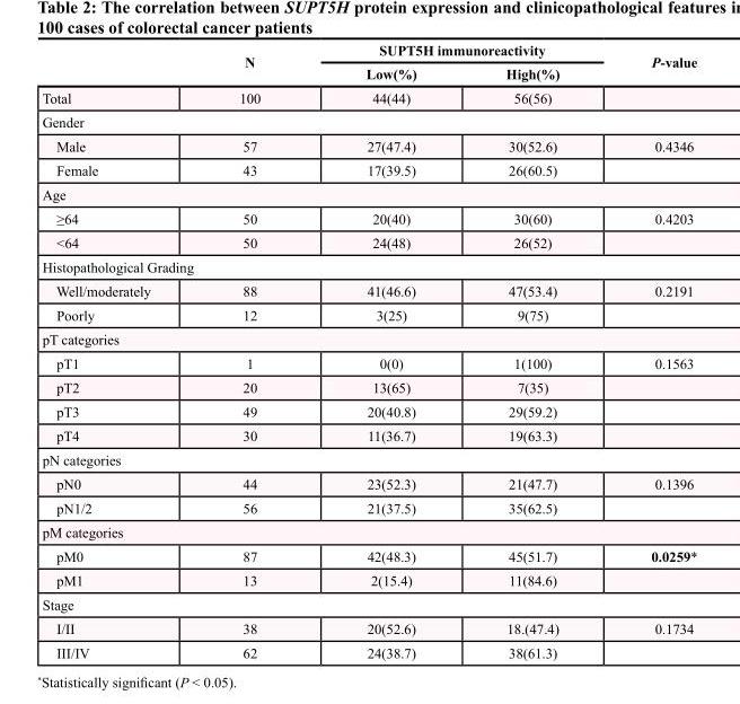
<table><thead><tr><td rowspan="2"></td><td rowspan="2">N</td><td colspan="2">SUPT5H immunoreactivity</td><td rowspan="2">P-value</td></tr><tr><td>Low(%)</td><td>High(%)</td></tr></thead><tbody><tr><td>Total</td><td>100</td><td>44(44)</td><td>56(56)</td><td></td></tr><tr><td colspan="5">Gender</td></tr><tr><td>Male</td><td>57</td><td>27(47.4)</td><td>30(52.6)</td><td>0.4346</td></tr><tr><td>Female</td><td>43</td><td>17(39.5)</td><td>26(60.5)</td><td></td></tr><tr><td colspan="5">Age</td></tr><tr><td>≥64</td><td>50</td><td>20(40)</td><td>30(60)</td><td>0.4203</td></tr><tr><td>&lt;64</td><td>50</td><td>24(48)</td><td>26(52)</td><td></td></tr><tr><td colspan="5">Histopathological Grading</td></tr><tr><td>Well/moderately</td><td>88</td><td>41(46.6)</td><td>47(53.4)</td><td>0.2191</td></tr><tr><td>Poorly</td><td>12</td><td>3(25)</td><td>9(75)</td><td></td></tr><tr><td colspan="5">pT categories</td></tr><tr><td>pT1</td><td>1</td><td>0(0)</td><td>1(100)</td><td>0.1563</td></tr><tr><td>pT2</td><td>20</td><td>13(65)</td><td>7(35)</td><td></td></tr><tr><td>pT3</td><td>49</td><td>20(40.8)</td><td>29(59.2)</td><td></td></tr><tr><td>pT4</td><td>30</td><td>11(36.7)</td><td>19(63.3)</td><td></td></tr><tr><td colspan="5">pN categories</td></tr><tr><td>pN0</td><td>44</td><td>23(52.3)</td><td>21(47.7)</td><td>0.1396</td></tr><tr><td>pN1/2</td><td>56</td><td>21(37.5)</td><td>35(62.5)</td><td></td></tr><tr><td colspan="5">pM categories</td></tr><tr><td>pM0</td><td>87</td><td>42(48.3)</td><td>45(51.7)</td><td>0.0259*</td></tr><tr><td>pM1</td><td>13</td><td>2(15.4)</td><td>11(84.6)</td><td></td></tr><tr><td colspan="5">Stage</td></tr><tr><td>I/II</td><td>38</td><td>20(52.6)</td><td>18.(47.4)</td><td>0.1734</td></tr><tr><td>III/IV</td><td>62</td><td>24(38.7)</td><td>38(61.3)</td><td></td></tr></tbody></table>